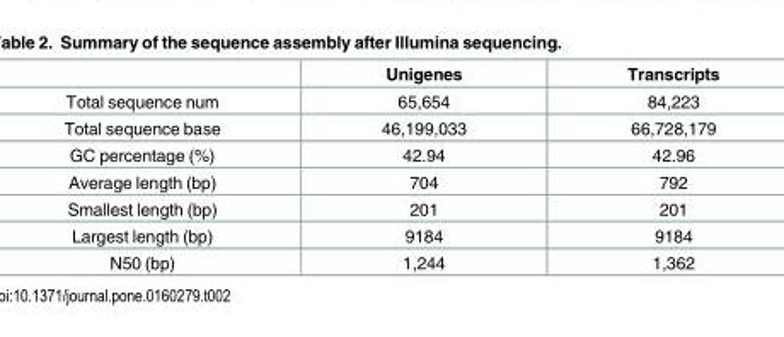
<table><thead><tr><td></td><td>Unigenes</td><td>Transcripts</td></tr></thead><tbody><tr><td>Total sequence num</td><td>65,654</td><td>84,223</td></tr><tr><td>Total sequence base</td><td>46,199,033</td><td>66,728,179</td></tr><tr><td>GC percentage (%)</td><td>42.94</td><td>42.96</td></tr><tr><td>Average length (bp)</td><td>704</td><td>792</td></tr><tr><td>Smallest length (bp)</td><td>201</td><td>201</td></tr><tr><td>Largest length (bp)</td><td>9184</td><td>9184</td></tr><tr><td>N50 (bp)</td><td>1,244</td><td>1,362</td></tr></tbody></table>